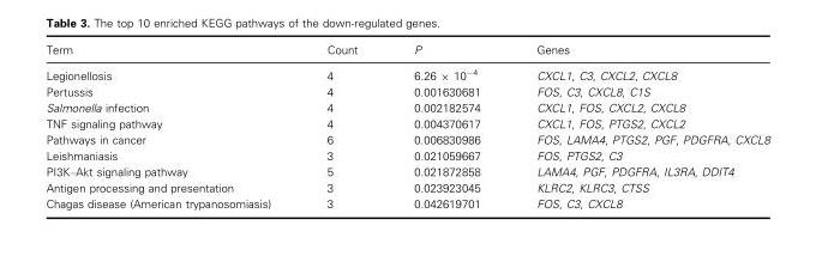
<table><thead><tr><td>Term</td><td>Count</td><td>P</td><td>Genes</td></tr></thead><tbody><tr><td>Legionellosis</td><td>4</td><td>6.26 × 10<sup>−4</sup></td><td>CXCL1, C3, CXCL2, CXCL8</td></tr><tr><td>Pertussis</td><td>4</td><td>0.001630681</td><td>FOS, C3, CXCL8, C1S</td></tr><tr><td>Salmonella infection</td><td>4</td><td>0.002182574</td><td>CXCL1, FOS, CXCL2, CXCL8</td></tr><tr><td>TNF signaling pathway</td><td>4</td><td>0.004370617</td><td>CXCL1, FOS, PTGS2, CXCL2</td></tr><tr><td>Pathways in cancer</td><td>6</td><td>0.006830986</td><td>FOS, LAMA4, PTGS2, PGF, PDGFRA, CXCL8</td></tr><tr><td>Leishmaniasis</td><td>3</td><td>0.021059667</td><td>FOS, PTGS2, C3</td></tr><tr><td>PI3K–Akt signaling pathway</td><td>5</td><td>0.021872858</td><td>LAMA4, PGF, PDGFRA, IL3RA, DDIT4</td></tr><tr><td>Antigen processing and presentation</td><td>3</td><td>0.023923045</td><td>KLRC2, KLRC3, CTSS</td></tr><tr><td>Chagas disease (American trypanosomiasis)</td><td>3</td><td>0.042619701</td><td>FOS, C3, CXCL8</td></tr></tbody></table>